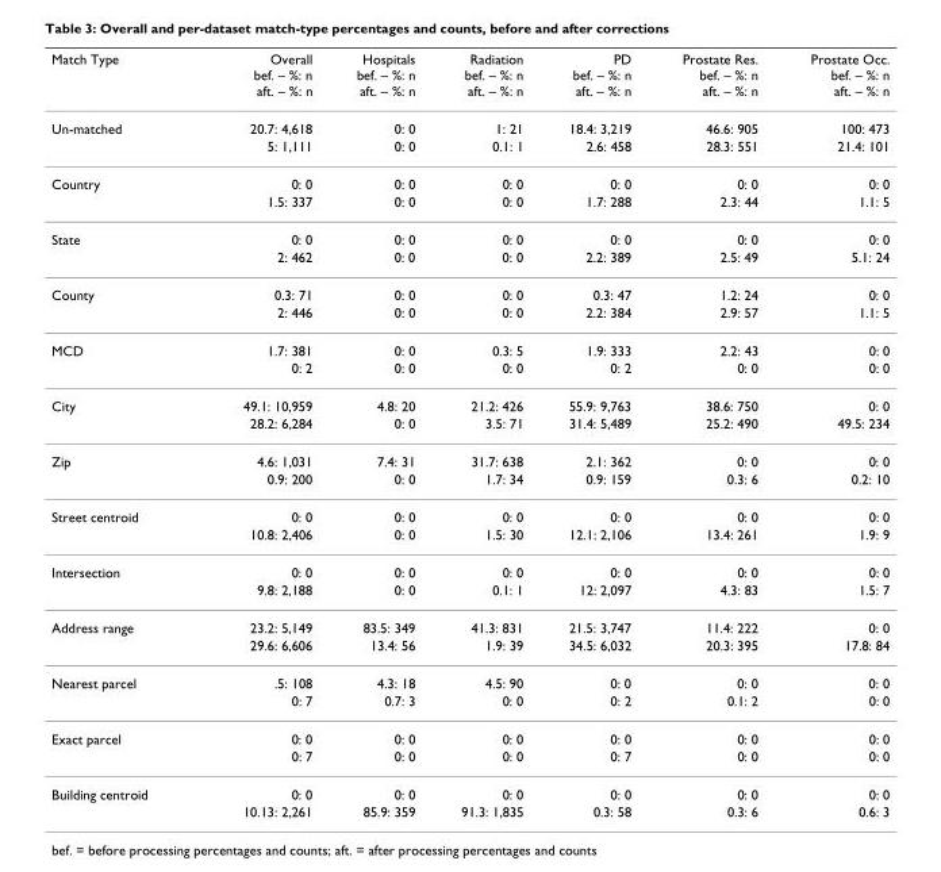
<table><thead><tr><td>Match Type</td><td>Overall bef. – %: n aft. – %: n</td><td>Hospitals bef. – %: n aft. – %: n</td><td>Radiation bef. – %: n aft. – %: n</td><td>PD bef. – %: n aft. – %: n</td><td>Prostate Res. bef. – %: n aft. – %: n</td><td>Prostate Occ. bef. – %: n aft. – %: n</td></tr></thead><tbody><tr><td rowspan="2">Un-matched</td><td>20.7: 4,618</td><td>0: 0</td><td>1: 21</td><td>18.4: 3,219</td><td>46.6: 905</td><td>100: 473</td></tr><tr><td>5: 1,111</td><td>0: 0</td><td>0.1: 1</td><td>2.6: 458</td><td>28.3: 551</td><td>21.4: 101</td></tr><tr><td rowspan="2">Country</td><td>0: 0</td><td>0: 0</td><td>0: 0</td><td>0: 0</td><td>0: 0</td><td>0: 0</td></tr><tr><td>1.5: 337</td><td>0: 0</td><td>0: 0</td><td>1.7: 288</td><td>2.3: 44</td><td>1.1: 5</td></tr><tr><td rowspan="2">State</td><td>0: 0</td><td>0: 0</td><td>0: 0</td><td>0: 0</td><td>0: 0</td><td>0: 0</td></tr><tr><td>2: 462</td><td>0: 0</td><td>0: 0</td><td>2.2: 389</td><td>2.5: 49</td><td>5.1: 24</td></tr><tr><td rowspan="2">County</td><td>0.3: 71</td><td>0: 0</td><td>0: 0</td><td>0.3: 47</td><td>1.2: 24</td><td>0: 0</td></tr><tr><td>2: 446</td><td>0: 0</td><td>0: 0</td><td>2.2: 384</td><td>2.9: 57</td><td>1.1: 5</td></tr><tr><td rowspan="2">MCD</td><td>1.7: 381</td><td>0: 0</td><td>0.3: 5</td><td>1.9: 333</td><td>2.2: 43</td><td>0: 0</td></tr><tr><td>0: 2</td><td>0: 0</td><td>0: 0</td><td>0: 2</td><td>0: 0</td><td>0: 0</td></tr><tr><td rowspan="2">City</td><td>49.1: 10,959</td><td>4.8: 20</td><td>21.2: 426</td><td>55.9: 9,763</td><td>38.6: 750</td><td>0: 0</td></tr><tr><td>28.2: 6,284</td><td>0: 0</td><td>3.5: 71</td><td>31.4: 5,489</td><td>25.2: 490</td><td>49.5: 234</td></tr><tr><td rowspan="2">Zip</td><td>4.6: 1,031</td><td>7.4: 31</td><td>31.7: 638</td><td>2.1: 362</td><td>0: 0</td><td>0: 0</td></tr><tr><td>0.9: 200</td><td>0: 0</td><td>1.7: 34</td><td>0.9: 159</td><td>0.3: 6</td><td>0.2: 10</td></tr><tr><td rowspan="2">Street centroid</td><td>0: 0</td><td>0: 0</td><td>0: 0</td><td>0: 0</td><td>0: 0</td><td>0: 0</td></tr><tr><td>10.8: 2,406</td><td>0: 0</td><td>1.5: 30</td><td>12.1: 2,106</td><td>13.4: 261</td><td>1.9: 9</td></tr><tr><td rowspan="2">Intersection</td><td>0: 0</td><td>0: 0</td><td>0: 0</td><td>0: 0</td><td>0: 0</td><td>0: 0</td></tr><tr><td>9.8: 2,188</td><td>0: 0</td><td>0.1: 1</td><td>12: 2,097</td><td>4.3: 83</td><td>1.5: 7</td></tr><tr><td rowspan="2">Address range</td><td>23.2: 5,149</td><td>83.5: 349</td><td>41.3: 831</td><td>21.5: 3,747</td><td>11.4: 222</td><td>0: 0</td></tr><tr><td>29.6: 6,606</td><td>13.4: 56</td><td>1.9: 39</td><td>34.5: 6,032</td><td>20.3: 395</td><td>17.8: 84</td></tr><tr><td rowspan="2">Nearest parcel</td><td>.5: 108</td><td>4.3: 18</td><td>4.5: 90</td><td>0: 0</td><td>0: 0</td><td>0: 0</td></tr><tr><td>0: 7</td><td>0.7: 3</td><td>0: 0</td><td>0: 2</td><td>0.1: 2</td><td>0: 0</td></tr><tr><td rowspan="2">Exact parcel</td><td>0: 0</td><td>0: 0</td><td>0: 0</td><td>0: 0</td><td>0: 0</td><td>0: 0</td></tr><tr><td>0: 7</td><td>0: 0</td><td>0: 0</td><td>0: 7</td><td>0: 0</td><td>0: 0</td></tr><tr><td rowspan="2">Building centroid</td><td>0: 0</td><td>0: 0</td><td>0: 0</td><td>0: 0</td><td>0: 0</td><td>0: 0</td></tr><tr><td>10.13: 2,261</td><td>85.9: 359</td><td>91.3: 1,835</td><td>0.3: 58</td><td>0.3: 6</td><td>0.6: 3</td></tr></tbody></table>